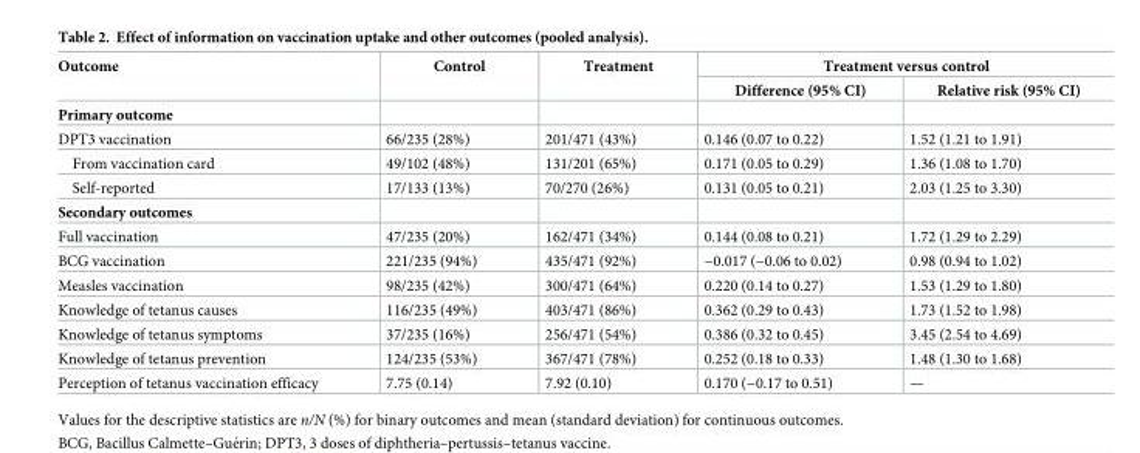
<table><thead><tr><td rowspan="2">Outcome</td><td rowspan="2">Control</td><td rowspan="2">Treatment</td><td colspan="2">Treatment versus control</td></tr><tr><td>Difference (95% CI)</td><td>Relative risk (95% CI)</td></tr></thead><tbody><tr><td colspan="5">Primary outcome</td></tr><tr><td>DPT3 vaccination</td><td>66/235 (28%)</td><td>201/471 (43%)</td><td>0.146 (0.07 to 0.22)</td><td>1.52 (1.21 to 1.91)</td></tr><tr><td>From vaccination card</td><td>49/102 (48%)</td><td>131/201 (65%)</td><td>0.171 (0.05 to 0.29)</td><td>1.36 (1.08 to 1.70)</td></tr><tr><td>Self-reported</td><td>17/133 (13%)</td><td>70/270 (26%)</td><td>0.131 (0.05 to 0.21)</td><td>2.03 (1.25 to 3.30)</td></tr><tr><td colspan="5">Secondary outcomes</td></tr><tr><td>Full vaccination</td><td>47/235 (20%)</td><td>162/471 (34%)</td><td>0.144 (0.08 to 0.21)</td><td>1.72 (1.29 to 2.29)</td></tr><tr><td>BCG vaccination</td><td>221/235 (94%)</td><td>435/471 (92%)</td><td>−0.017 (−0.06 to 0.02)</td><td>0.98 (0.94 to 1.02)</td></tr><tr><td>Measles vaccination</td><td>98/235 (42%)</td><td>300/471 (64%)</td><td>0.220 (0.14 to 0.27)</td><td>1.53 (1.29 to 1.80)</td></tr><tr><td>Knowledge of tetanus causes</td><td>116/235 (49%)</td><td>403/471 (86%)</td><td>0.362 (0.29 to 0.43)</td><td>1.73 (1.52 to 1.98)</td></tr><tr><td>Knowledge of tetanus symptoms</td><td>37/235 (16%)</td><td>256/471 (54%)</td><td>0.386 (0.32 to 0.45)</td><td>3.45 (2.54 to 4.69)</td></tr><tr><td>Knowledge of tetanus prevention</td><td>124/235 (53%)</td><td>367/471 (78%)</td><td>0.252 (0.18 to 0.33)</td><td>1.48 (1.30 to 1.68)</td></tr><tr><td>Perception of tetanus vaccination efficacy</td><td>7.75 (0.14)</td><td>7.92 (0.10)</td><td>0.170 (−0.17 to 0.51)</td><td>—</td></tr></tbody></table>